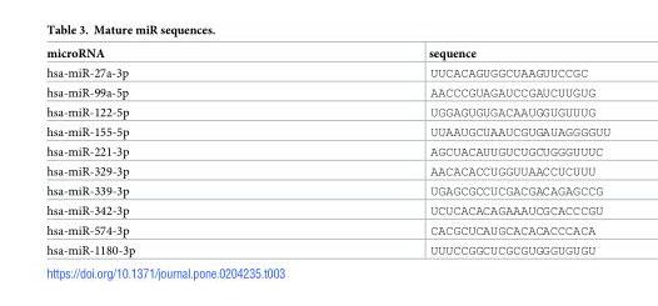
<table><thead><tr><td>microRNA</td><td>sequence</td></tr></thead><tbody><tr><td>hsa-miR-27a-3p</td><td>UUCACAGUGGCUAAGUUCCGC</td></tr><tr><td>hsa-miR-99a-5p</td><td>AACCCGUAGAUCCGAUCUUGUG</td></tr><tr><td>hsa-miR-122-5p</td><td>UGGAGUGUGACAAUGGUGUUUG</td></tr><tr><td>hsa-miR-155-5p</td><td>UUAAUGCUAAUCGUGAUAGGGGUU</td></tr><tr><td>hsa-miR-221-3p</td><td>AGCUACAUUGUCUGCUGGGUUUC</td></tr><tr><td>hsa-miR-329-3p</td><td>AACACACCUGGUUAACCUCUUU</td></tr><tr><td>hsa-miR-339-3p</td><td>UGAGCGCCUCGACGACAGAGCCG</td></tr><tr><td>hsa-miR-342-3p</td><td>UCUCACACAGAAAUCGCACCCGU</td></tr><tr><td>hsa-miR-574-3p</td><td>CACGCUCAUGCACACACCCACA</td></tr><tr><td>hsa-miR-1180-3p</td><td>UUUCCGGCUCGCGUGGGUGUGU</td></tr></tbody></table>